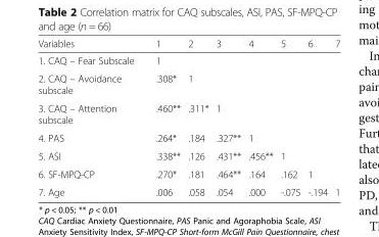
<table><thead><tr><td>Variables</td><td>1</td><td>2</td><td>3</td><td>4</td><td>5</td><td>6</td><td>7</td></tr></thead><tbody><tr><td>1. CAQ – Fear Subscale</td><td>1</td><td></td><td></td><td></td><td></td><td></td><td></td></tr><tr><td>2. CAQ – Avoidance subscale</td><td>.308*</td><td>1</td><td></td><td></td><td></td><td></td><td></td></tr><tr><td>3. CAQ – Attention subscale</td><td>.460**</td><td>.311*</td><td>1</td><td></td><td></td><td></td><td></td></tr><tr><td>4. PAS</td><td>.264*</td><td>.184</td><td>.327**</td><td>1</td><td></td><td></td><td></td></tr><tr><td>5. ASI</td><td>.338**</td><td>.126</td><td>.431**</td><td>.456**</td><td>1</td><td></td><td></td></tr><tr><td>6. SF-MPQ-CP</td><td>.270*</td><td>.181</td><td>.464**</td><td>.164</td><td>.162</td><td>1</td><td></td></tr><tr><td>7. Age</td><td>.006</td><td>.058</td><td>.054</td><td>.000</td><td>-.075</td><td>-.194</td><td>1</td></tr></tbody></table>